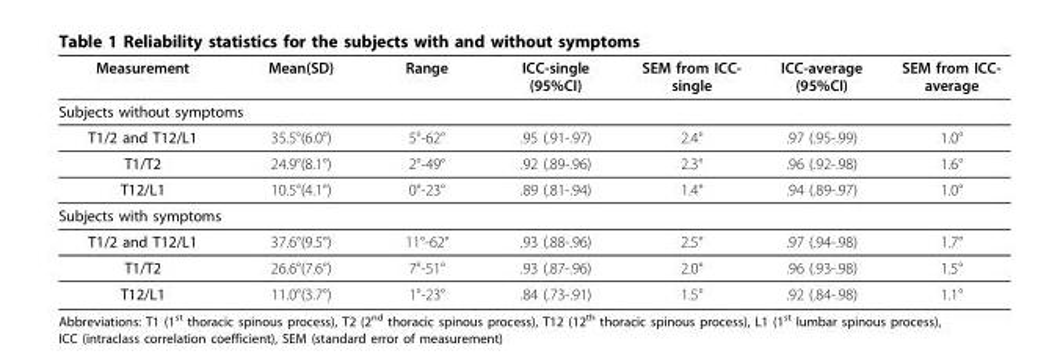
<table><thead><tr><td>Measurement</td><td>Mean(SD)</td><td>Range</td><td>ICC-single (95%CI)</td><td>SEM from ICC- single</td><td>ICC-average (95%CI)</td><td>SEM from ICC- average</td></tr></thead><tbody><tr><td colspan="7">Subjects without symptoms</td></tr><tr><td>T1/2 and T12/L1</td><td>35.5°(6.0°)</td><td>5°-62°</td><td>.95 (.91-.97)</td><td>2.4°</td><td>.97 (.95-.99)</td><td>1.0°</td></tr><tr><td>T1/T2</td><td>24.9°(8.1°)</td><td>2°-49°</td><td>.92 (.89-.96)</td><td>2.3°</td><td>.96 (.92-.98)</td><td>1.6°</td></tr><tr><td>T12/L1</td><td>10.5°(4.1°)</td><td>0°-23°</td><td>.89 (.81-.94)</td><td>1.4°</td><td>.94 (.89-.97)</td><td>1.0°</td></tr><tr><td colspan="7">Subjects with symptoms</td></tr><tr><td>T1/2 and T12/L1</td><td>37.6°(9.5°)</td><td>11°-62°</td><td>.93 (.88-.96)</td><td>2.5°</td><td>.97 (.94-.98)</td><td>1.7°</td></tr><tr><td>T1/T2</td><td>26.6°(7.6°)</td><td>7°-51°</td><td>.93 (.87-.96)</td><td>2.0°</td><td>.96 (.93-.98)</td><td>1.5°</td></tr><tr><td>T12/L1</td><td>11.0°(3.7°)</td><td>1°-23°</td><td>.84 (.73-.91)</td><td>1.5°</td><td>.92 (.84-.98)</td><td>1.1°</td></tr></tbody></table>